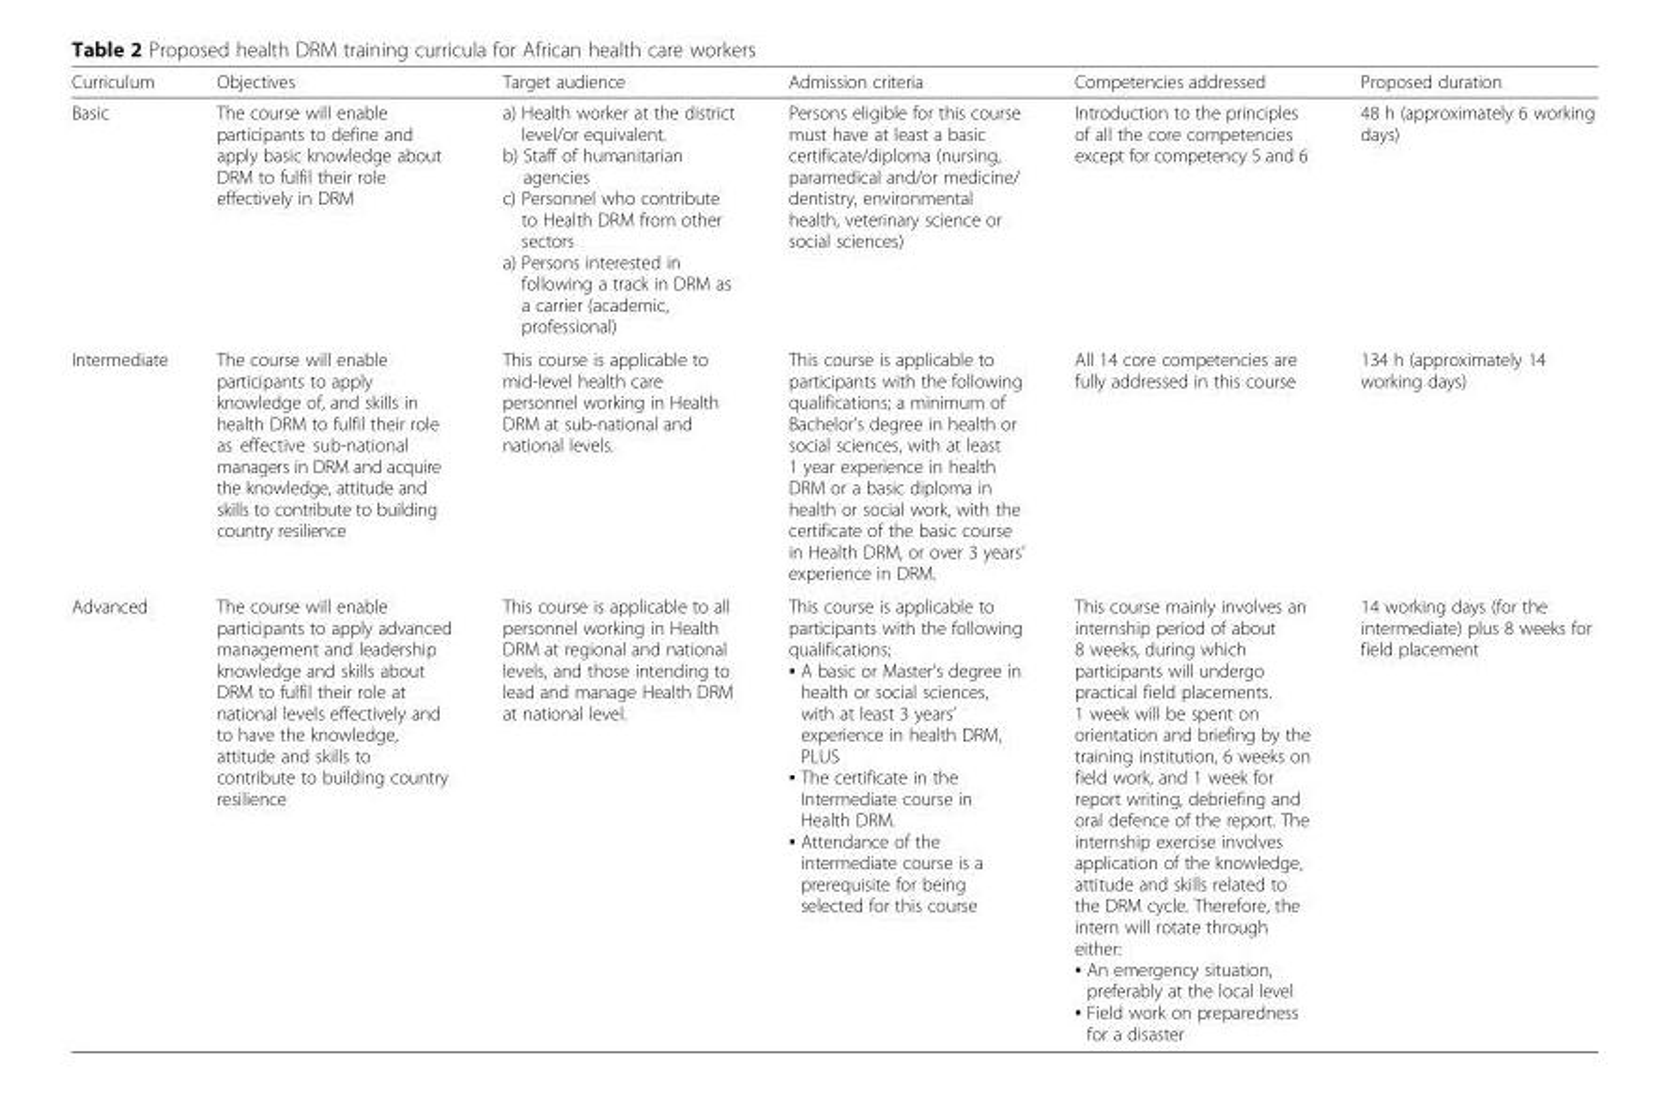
<table><thead><tr><td>Curriculum</td><td>Objectives</td><td>Target audience</td><td>Admission criteria</td><td>Competencies addressed</td><td>Proposed duration</td></tr></thead><tbody><tr><td>Basic</td><td>The course will enable participants to define and apply basic knowledge about DRM to fulfil their role effectively in DRM</td><td>a) Health worker at the district level/or equivalent. b) Staff of humanitarian agencies c) Personnel who contribute to Health DRM from other sectors a) Persons interested in following a track in DRM as a carrier (academic, professional)</td><td>Persons eligible for this course must have at least a basic certificate/diploma (nursing, paramedical and/or medicine/ dentistry, environmental health, veterinary science or social sciences)</td><td>Introduction to the principles of all the core competencies except for competency 5 and 6</td><td>48 h (approximately 6 working days)</td></tr><tr><td>Intermediate</td><td>The course will enable participants to apply knowledge of, and skills in health DRM to fulfil their role as effective sub-national managers in DRM and acquire the knowledge, attitude and skills to contribute to building country resilience</td><td>This course is applicable to mid-level health care personnel working in Health DRM at sub-national and national levels.</td><td>This course is applicable to participants with the following qualifications; a minimum of Bachelor’s degree in health or social sciences, with at least 1 year experience in health DRM or a basic diploma in health or social work, with the certificate of the basic course in Health DRM, or over 3 years’ experience in DRM.</td><td>All 14 core competencies are fully addressed in this course</td><td>134 h (approximately 14 working days)</td></tr><tr><td>Advanced</td><td>The course will enable participants to apply advanced management and leadership knowledge and skills about DRM to fulfil their role at national levels effectively and to have the knowledge, attitude and skills to contribute to building country resilience</td><td>This course is applicable to all personnel working in Health DRM at regional and national levels, and those intending to lead and manage Health DRM at national level.</td><td>This course is applicable to participants with the following qualifications; ▪ A basic or Master’s degree in health or social sciences, with at least 3 years’ experience in health DRM, PLUS ▪ The certificate in the Intermediate course in Health DRM. ▪ Attendance of the intermediate course is a prerequisite for being selected for this course</td><td>This course mainly involves an internship period of about 8 weeks, during which participants will undergo practical field placements. 1 week will be spent on orientation and briefing by the training institution, 6 weeks on field work, and 1 week for report writing, debriefing and oral defence of the report. The internship exercise involves application of the knowledge, attitude and skills related to the DRM cycle. Therefore, the intern will rotate through either: ▪ An emergency situation, preferably at the local level ▪ Field work on preparedness for a disaster</td><td>14 working days (for the intermediate) plus 8 weeks for field placement</td></tr></tbody></table>